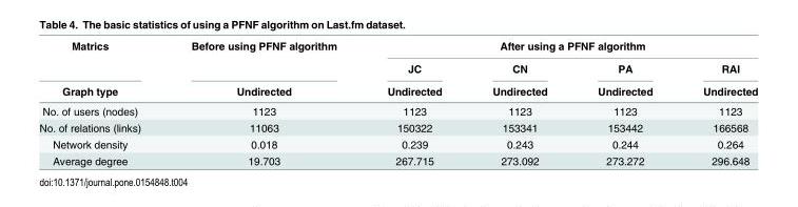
<table><thead><tr><td rowspan="3">Matrics Graph type</td><td rowspan="3">Before using PFNF algorithm Undirected</td><td colspan="4">After using a PFNF algorithm</td></tr><tr><td rowspan="2">JC Undirected</td><td rowspan="2">CN Undirected</td><td rowspan="2">PA Undirected</td><td rowspan="2">RAI Undirected</td></tr><tr></tr></thead><tbody><tr><td>No. of users (nodes)</td><td>1123</td><td>1123</td><td>1123</td><td>1123</td><td>1123</td></tr><tr><td>No. of relations (links)</td><td>11063</td><td>150322</td><td>153341</td><td>153442</td><td>166568</td></tr><tr><td>Network density</td><td>0.018</td><td>0.239</td><td>0.243</td><td>0.244</td><td>0.264</td></tr><tr><td>Average degree</td><td>19.703</td><td>267.715</td><td>273.092</td><td>273.272</td><td>296.648</td></tr></tbody></table>